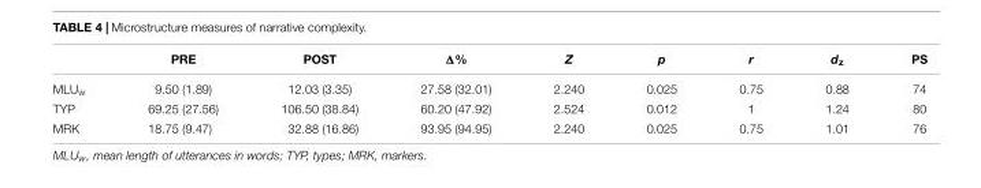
<table><thead><tr><td></td><td>PRE</td><td>POST</td><td>Δ%</td><td>Z</td><td>p</td><td>r</td><td>d<sub>z</sub></td><td>PS</td></tr></thead><tbody><tr><td>MLU<sub>w</sub></td><td>9.50 (1.89)</td><td>12.03 (3.35)</td><td>27.58 (32.01)</td><td>2.240</td><td>0.025</td><td>0.75</td><td>0.88</td><td>74</td></tr><tr><td>TYP</td><td>69.25 (27.56)</td><td>106.50 (38.84)</td><td>60.20 (47.92)</td><td>2.524</td><td>0.012</td><td>1</td><td>1.24</td><td>80</td></tr><tr><td>MRK</td><td>18.75 (9.47)</td><td>32.88 (16.86)</td><td>93.95 (94.95)</td><td>2.240</td><td>0.025</td><td>0.75</td><td>1.01</td><td>76</td></tr></tbody></table>